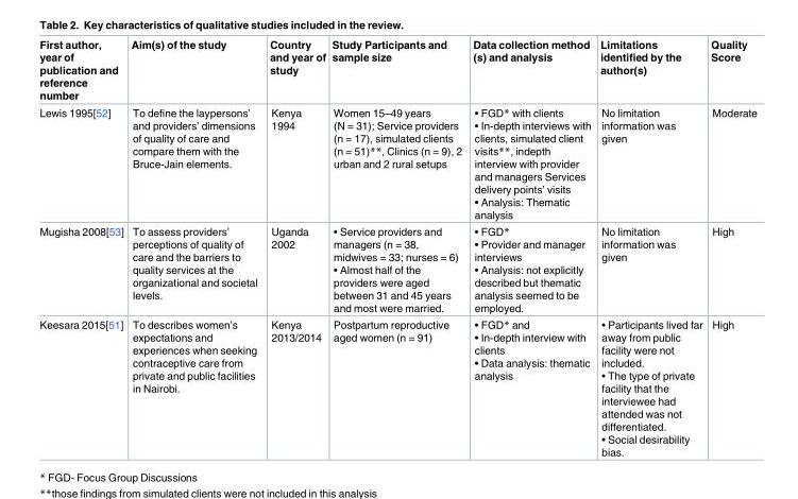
<table><thead><tr><td>First author, year of publication and reference number</td><td>Aim(s) of the study</td><td>Country and year of study</td><td>Study Participants and sample size</td><td>Data collection method (s) and analysis</td><td>Limitations identified by the author(s)</td><td>Quality Score</td></tr></thead><tbody><tr><td>Lewis 1995[52]</td><td>To define the laypersons’ and providers’ dimensions of quality of care and compare them with the Bruce-Jain elements.</td><td>Kenya 1994</td><td>Women 15–49 years (N = 31); Service providers (n = 17), simulated clients (n = 51)**, Clinics (n = 9), 2 urban and 2 rural setups</td><td>• FGD* with clients • In-depth interviews with clients, simulated client visits**, indepth interview with provider and managers Services delivery points’ visits • Analysis: Thematic analysis</td><td>No limitation information was given</td><td>Moderate</td></tr><tr><td>Mugisha 2008[53]</td><td>To assess providers’ perceptions of quality of care and the barriers to quality services at the organizational and societal levels.</td><td>Uganda 2002</td><td>• Service providers and managers (n = 38, midwives = 33; nurses = 6) • Almost half of the providers were aged between 31 and 45 years and most were married.</td><td>• FGD* • Provider and manager interviews • Analysis: not explicitly described but thematic analysis seemed to be employed.</td><td>No limitation information was given</td><td>High</td></tr><tr><td>Keesara 2015[51]</td><td>To describes women’s expectations and experiences when seeking contraceptive care from private and public facilities in Nairobi.</td><td>Kenya 2013/2014</td><td>Postpartum reproductive aged women (n = 91)</td><td>• FGD* and • In-depth interview with clients • Data analysis: thematic analysis</td><td>• Participants lived far away from public facility were not included. • The type of private facility that the interviewee had attended was not differentiated. • Social desirability bias.</td><td>High</td></tr></tbody></table>